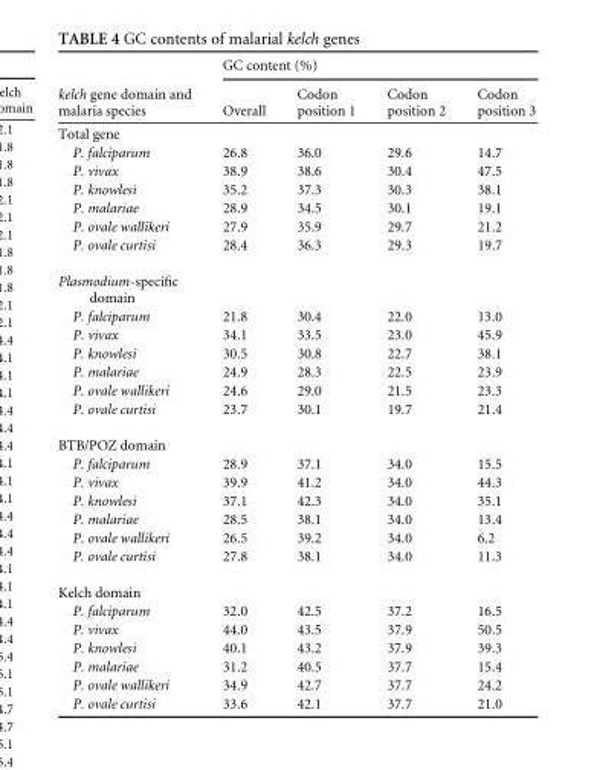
<table><thead><tr><td rowspan="2">kelch gene domain and malaria species</td><td colspan="4">GC content (%)</td></tr><tr><td>Overall</td><td>Codon position 1</td><td>Codon position 2</td><td>Codon position 3</td></tr></thead><tbody><tr><td colspan="5">Total gene</td></tr><tr><td>P. falciparum</td><td>26.8</td><td>36.0</td><td>29.6</td><td>14.7</td></tr><tr><td>P. vivax</td><td>38.9</td><td>38.6</td><td>30.4</td><td>47.5</td></tr><tr><td>P. knowlesi</td><td>35.2</td><td>37.3</td><td>30.3</td><td>38.1</td></tr><tr><td>P. malariae</td><td>28.9</td><td>34.5</td><td>30.1</td><td>19.1</td></tr><tr><td>P. ovale wallikeri</td><td>27.9</td><td>35.9</td><td>29.7</td><td>21.2</td></tr><tr><td>P. ovale curtisi</td><td>28.4</td><td>36.3</td><td>29.3</td><td>19.7</td></tr><tr><td colspan="5">Plasmodium-specific domain</td></tr><tr><td>P. falciparum</td><td>21.8</td><td>30.4</td><td>22.0</td><td>13.0</td></tr><tr><td>P. vivax</td><td>34.1</td><td>33.5</td><td>23.0</td><td>45.9</td></tr><tr><td>P. knowlesi</td><td>30.5</td><td>30.8</td><td>22.7</td><td>38.1</td></tr><tr><td>P. malariae</td><td>24.9</td><td>28.3</td><td>22.5</td><td>23.9</td></tr><tr><td>P. ovale wallikeri</td><td>24.6</td><td>29.0</td><td>21.5</td><td>23.3</td></tr><tr><td>P. ovale curtisi</td><td>23.7</td><td>30.1</td><td>19.7</td><td>21.4</td></tr><tr><td colspan="5">BTB/POZ domain</td></tr><tr><td>P. falciparum</td><td>28.9</td><td>37.1</td><td>34.0</td><td>15.5</td></tr><tr><td>P. vivax</td><td>39.9</td><td>41.2</td><td>34.0</td><td>44.3</td></tr><tr><td>P. knowlesi</td><td>37.1</td><td>42.3</td><td>34.0</td><td>35.1</td></tr><tr><td>P. malariae</td><td>28.5</td><td>38.1</td><td>34.0</td><td>13.4</td></tr><tr><td>P. ovale wallikeri</td><td>26.5</td><td>39.2</td><td>34.0</td><td>6.2</td></tr><tr><td>P. ovale curtisi</td><td>27.8</td><td>38.1</td><td>34.0</td><td>11.3</td></tr><tr><td colspan="5">Kelch domain</td></tr><tr><td>P. falciparum</td><td>32.0</td><td>42.5</td><td>37.2</td><td>16.5</td></tr><tr><td>P. vivax</td><td>44.0</td><td>43.5</td><td>37.9</td><td>50.5</td></tr><tr><td>P. knowlesi</td><td>40.1</td><td>43.2</td><td>37.9</td><td>39.3</td></tr><tr><td>P. malariae</td><td>31.2</td><td>40.5</td><td>37.7</td><td>15.4</td></tr><tr><td>P. ovale wallikeri</td><td>34.9</td><td>42.7</td><td>37.7</td><td>24.2</td></tr><tr><td>P. ovale curtisi</td><td>33.6</td><td>42.1</td><td>37.7</td><td>21.0</td></tr></tbody></table>